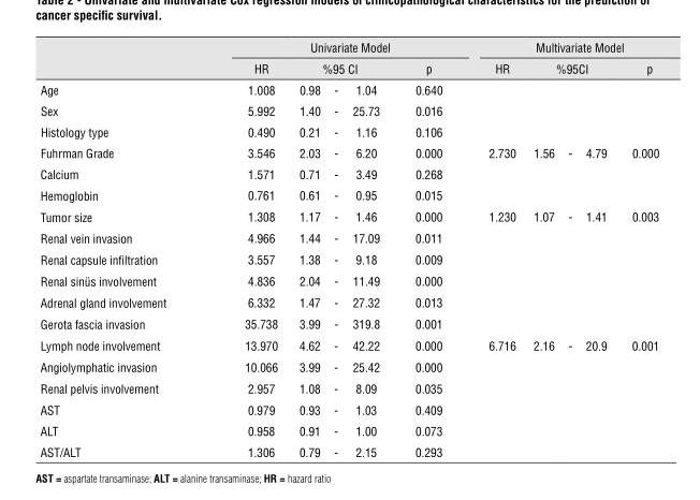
<table><thead><tr><td rowspan="2"></td><td colspan="3">Univariate Model</td><td colspan="3">Multivariate Model</td></tr><tr><td>HR</td><td>%95 CI</td><td>p</td><td>HR</td><td>%95CI</td><td>p</td></tr></thead><tbody><tr><td>Age</td><td>1.008</td><td>0.98 - 1.04</td><td>0.640</td><td></td><td></td><td></td></tr><tr><td>Sex</td><td>5.992</td><td>1.40 - 25.73</td><td>0.016</td><td></td><td></td><td></td></tr><tr><td>Histology type</td><td>0.490</td><td>0.21 - 1.16</td><td>0.106</td><td></td><td></td><td></td></tr><tr><td>Fuhrman Grade</td><td>3.546</td><td>2.03 - 6.20</td><td>0.000</td><td>2.730</td><td>1.56 - 4.79</td><td>0.000</td></tr><tr><td>Calcium</td><td>1.571</td><td>0.71 - 3.49</td><td>0.268</td><td></td><td></td><td></td></tr><tr><td>Hemoglobin</td><td>0.761</td><td>0.61 - 0.95</td><td>0.015</td><td></td><td></td><td></td></tr><tr><td>Tumor size</td><td>1.308</td><td>1.17 - 1.46</td><td>0.000</td><td>1.230</td><td>1.07 - 1.41</td><td>0.003</td></tr><tr><td>Renal vein invasion</td><td>4.966</td><td>1.44 - 17.09</td><td>0.011</td><td></td><td></td><td></td></tr><tr><td>Renal capsule infiltration</td><td>3.557</td><td>1.38 - 9.18</td><td>0.009</td><td></td><td></td><td></td></tr><tr><td>Renal sinüs involvement</td><td>4.836</td><td>2.04 - 11.49</td><td>0.000</td><td></td><td></td><td></td></tr><tr><td>Adrenal gland involvement</td><td>6.332</td><td>1.47 - 27.32</td><td>0.013</td><td></td><td></td><td></td></tr><tr><td>Gerota fascia invasion</td><td>35.738</td><td>3.99 - 319.8</td><td>0.001</td><td></td><td></td><td></td></tr><tr><td>Lymph node involvement</td><td>13.970</td><td>4.62 - 42.22</td><td>0.000</td><td>6.716</td><td>2.16 - 20.9</td><td>0.001</td></tr><tr><td>Angiolymphatic invasion</td><td>10.066</td><td>3.99 - 25.42</td><td>0.000</td><td></td><td></td><td></td></tr><tr><td>Renal pelvis involvement</td><td>2.957</td><td>1.08 - 8.09</td><td>0.035</td><td></td><td></td><td></td></tr><tr><td>AST</td><td>0.979</td><td>0.93 - 1.03</td><td>0.409</td><td></td><td></td><td></td></tr><tr><td>ALT</td><td>0.958</td><td>0.91 - 1.00</td><td>0.073</td><td></td><td></td><td></td></tr><tr><td>AST/ALT</td><td>1.306</td><td>0.79 - 2.15</td><td>0.293</td><td></td><td></td><td></td></tr></tbody></table>